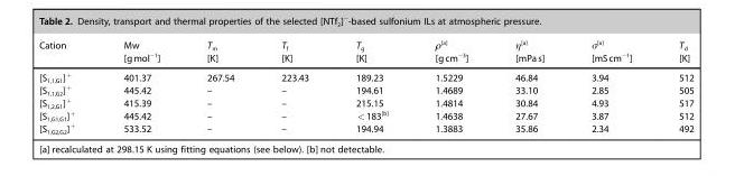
<table><thead><tr><td>Cation</td><td>Mw [gmol<sup>−1</sup>]</td><td>T<sub>m</sub> [K]</td><td>T<sub>f</sub> [K]</td><td>T<sub>g</sub> [K]</td><td>ρ<sup>[a]</sup> [gcm<sup>−3</sup>]</td><td>η<sup>[a]</sup> [mPas]</td><td>σ<sup>[a]</sup> [mScm<sup>−1</sup>]</td><td>T<sub>d</sub> [K]</td></tr></thead><tbody><tr><td>[S<sub>1,1,G1</sub>]<sup>+</sup></td><td>401.37</td><td>267.54</td><td>223.43</td><td>189.23</td><td>1.5229</td><td>46.84</td><td>3.94</td><td>512</td></tr><tr><td>[S<sub>1,1,G2</sub>]<sup>+</sup></td><td>445.42</td><td>–</td><td>–</td><td>194.61</td><td>1.4689</td><td>33.10</td><td>2.85</td><td>505</td></tr><tr><td>[S<sub>1,2,G1</sub>]<sup>+</sup></td><td>415.39</td><td>–</td><td>–</td><td>215.15</td><td>1.4814</td><td>30.84</td><td>4.93</td><td>517</td></tr><tr><td>[S<sub>1,G1,G1</sub>]<sup>+</sup></td><td>445.42</td><td>–</td><td>–</td><td>&lt;183<sup>[b]</sup></td><td>1.4638</td><td>27.67</td><td>3.87</td><td>512</td></tr><tr><td>[S<sub>1,G2,G2</sub>]<sup>+</sup></td><td>533.52</td><td>–</td><td>–</td><td>194.94</td><td>1.3883</td><td>35.86</td><td>2.34</td><td>492</td></tr></tbody></table>